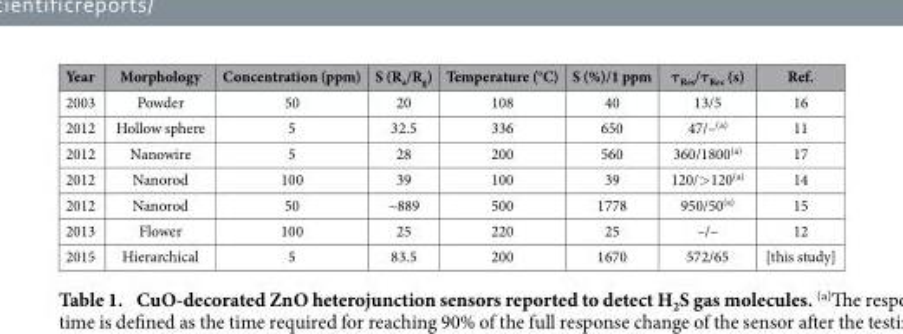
<table><thead><tr><td>Year</td><td>Morphology</td><td>Concentration (ppm)</td><td>S (R<sub>a</sub>/R<sub>g</sub>)</td><td>Temperature (°C)</td><td>S (%)/1 ppm</td><td>τ<sub>Res</sub>/τ<sub>Rec</sub> (s)</td><td>Ref.</td></tr></thead><tbody><tr><td>2003</td><td>Powder</td><td>50</td><td>20</td><td>108</td><td>40</td><td>13/5</td><td>16</td></tr><tr><td>2012</td><td>Hollow sphere</td><td>5</td><td>32.5</td><td>336</td><td>650</td><td>47/–(a)</td><td>11</td></tr><tr><td>2012</td><td>Nanowire</td><td>5</td><td>28</td><td>200</td><td>560</td><td>360/1800(a)</td><td>17</td></tr><tr><td>2012</td><td>Nanorod</td><td>100</td><td>39</td><td>100</td><td>39</td><td>120/&gt;120(a)</td><td>14</td></tr><tr><td>2012</td><td>Nanorod</td><td>50</td><td>~889</td><td>500</td><td>1778</td><td>950/50(a)</td><td>15</td></tr><tr><td>2013</td><td>Flower</td><td>100</td><td>25</td><td>220</td><td>25</td><td>–/–</td><td>12</td></tr><tr><td>2015</td><td>Hierarchical</td><td>5</td><td>83.5</td><td>200</td><td>1670</td><td>572/65</td><td>[this study]</td></tr></tbody></table>